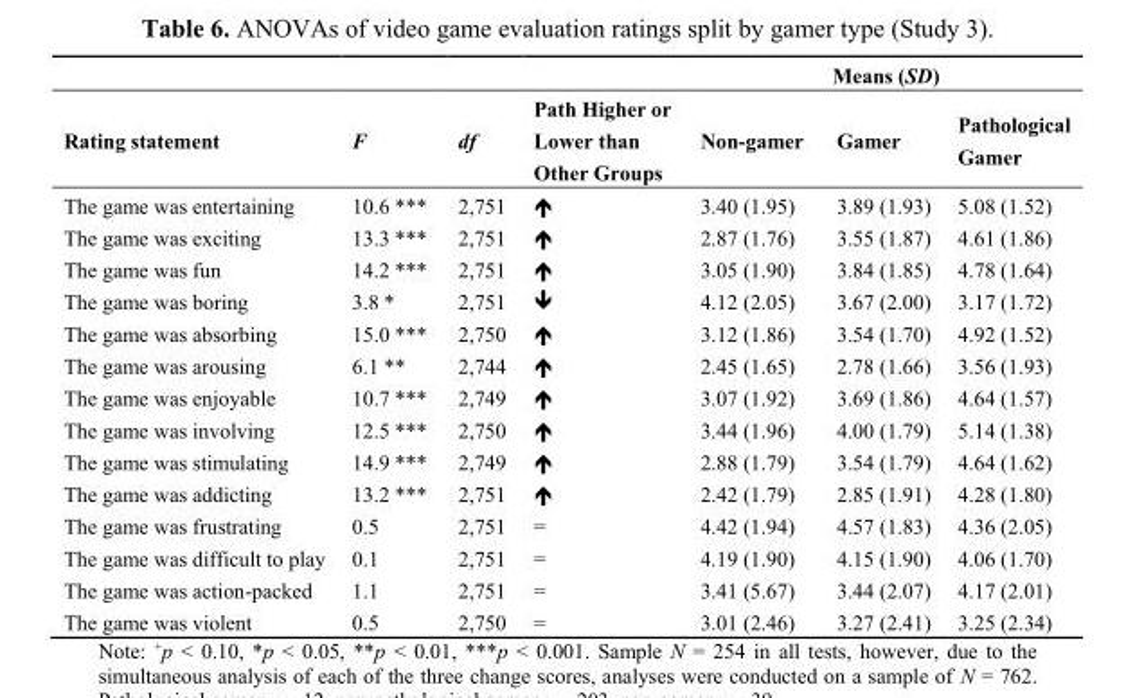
<table><thead><tr><td rowspan="2">Rating statement</td><td rowspan="2">F</td><td rowspan="2">df</td><td rowspan="2">Path Higher or Lower than Other Groups</td><td colspan="3">Means (SD)</td></tr><tr><td>Non-gamer</td><td>Gamer</td><td>Pathological Gamer</td></tr></thead><tbody><tr><td>The game was entertaining</td><td>10.6 ***</td><td>2,751</td><td>⬆</td><td>3.40 (1.95)</td><td>3.89 (1.93)</td><td>5.08 (1.52)</td></tr><tr><td>The game was exciting</td><td>13.3 ***</td><td>2,751</td><td>⬆</td><td>2.87 (1.76)</td><td>3.55 (1.87)</td><td>4.61 (1.86)</td></tr><tr><td>The game was fun</td><td>14.2 ***</td><td>2,751</td><td>⬆</td><td>3.05 (1.90)</td><td>3.84 (1.85)</td><td>4.78 (1.64)</td></tr><tr><td>The game was boring</td><td>3.8 *</td><td>2,751</td><td>⬇</td><td>4.12 (2.05)</td><td>3.67 (2.00)</td><td>3.17 (1.72)</td></tr><tr><td>The game was absorbing</td><td>15.0 ***</td><td>2,750</td><td>⬆</td><td>3.12 (1.86)</td><td>3.54 (1.70)</td><td>4.92 (1.52)</td></tr><tr><td>The game was arousing</td><td>6.1 **</td><td>2,744</td><td>⬆</td><td>2.45 (1.65)</td><td>2.78 (1.66)</td><td>3.56 (1.93)</td></tr><tr><td>The game was enjoyable</td><td>10.7 ***</td><td>2,749</td><td>⬆</td><td>3.07 (1.92)</td><td>3.69 (1.86)</td><td>4.64 (1.57)</td></tr><tr><td>The game was involving</td><td>12.5 ***</td><td>2,750</td><td>⬆</td><td>3.44 (1.96)</td><td>4.00 (1.79)</td><td>5.14 (1.38)</td></tr><tr><td>The game was stimulating</td><td>14.9 ***</td><td>2,749</td><td>⬆</td><td>2.88 (1.79)</td><td>3.54 (1.79)</td><td>4.64 (1.62)</td></tr><tr><td>The game was addicting</td><td>13.2 ***</td><td>2,751</td><td>⬆</td><td>2.42 (1.79)</td><td>2.85 (1.91)</td><td>4.28 (1.80)</td></tr><tr><td>The game was frustrating</td><td>0.5</td><td>2,751</td><td>=</td><td>4.42 (1.94)</td><td>4.57 (1.83)</td><td>4.36 (2.05)</td></tr><tr><td>The game was difficult to play</td><td>0.1</td><td>2,751</td><td>=</td><td>4.19 (1.90)</td><td>4.15 (1.90)</td><td>4.06 (1.70)</td></tr><tr><td>The game was action-packed</td><td>1.1</td><td>2,751</td><td>=</td><td>3.41 (5.67)</td><td>3.44 (2.07)</td><td>4.17 (2.01)</td></tr><tr><td>The game was violent</td><td>0.5</td><td>2,750</td><td>=</td><td>3.01 (2.46)</td><td>3.27 (2.41)</td><td>3.25 (2.34)</td></tr></tbody></table>